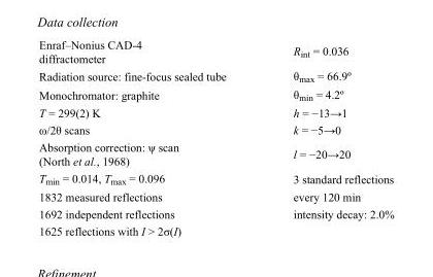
<table><tbody><tr><td>Enraf–Nonius CAD-4 diffractometer</td><td>R<sub>int</sub> = 0.036</td></tr><tr><td>Radiation source: fine-focus sealed tube</td><td>θ<sub>max</sub> = 66.9º</td></tr><tr><td>Monochromator: graphite</td><td>θ<sub>min</sub> = 4.2º</td></tr><tr><td>T = 299(2) K</td><td>h = −13→1</td></tr><tr><td>ω/2θ scans</td><td>k = −5→0</td></tr><tr><td>Absorption correction: ψ scan (North et al., 1968)</td><td>l = −20→20</td></tr><tr><td>T<sub>min</sub> = 0.014, T<sub>max</sub> = 0.096</td><td>3 standard reflections</td></tr><tr><td>1832 measured reflections</td><td>every 120 min</td></tr><tr><td>1692 independent reflections</td><td>intensity decay: 2.0%</td></tr><tr><td>1625 reflections with I &gt; 2σ(I)</td><td></td></tr></tbody></table>